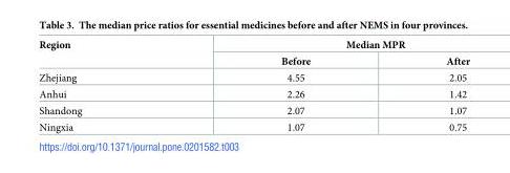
<table><thead><tr><td rowspan="2">Region</td><td colspan="2">Median MPR</td></tr><tr><td>Before</td><td>After</td></tr></thead><tbody><tr><td>Zhejiang</td><td>4.55</td><td>2.05</td></tr><tr><td>Anhui</td><td>2.26</td><td>1.42</td></tr><tr><td>Shandong</td><td>2.07</td><td>1.07</td></tr><tr><td>Ningxia</td><td>1.07</td><td>0.75</td></tr></tbody></table>